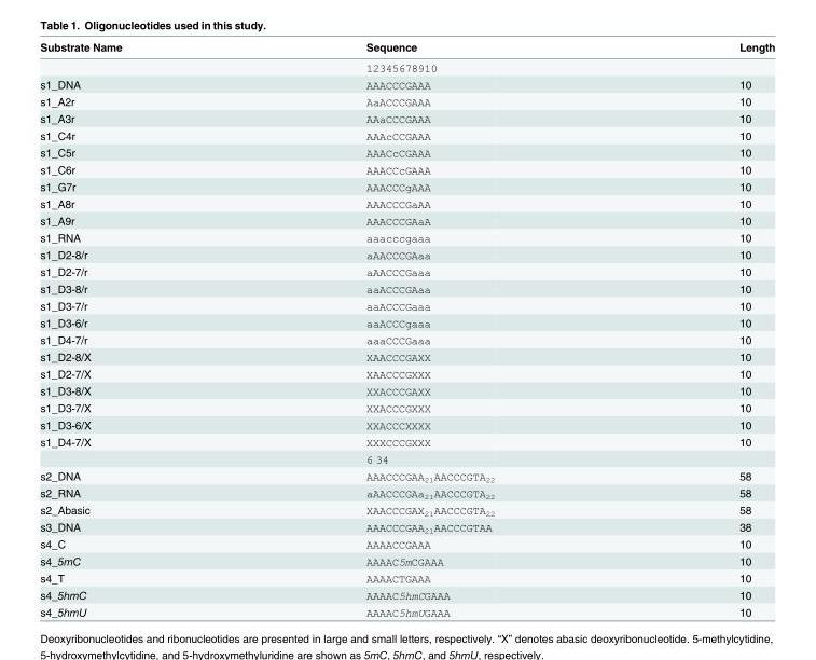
<table><thead><tr><td>Substrate Name</td><td>Sequence</td><td>Length</td></tr></thead><tbody><tr><td></td><td>12345678910</td><td></td></tr><tr><td>s1_DNA</td><td>AAACCCGAAA</td><td>10</td></tr><tr><td>s1_A2r</td><td>AaACCCGAAA</td><td>10</td></tr><tr><td>s1_A3r</td><td>AAaCCCGAAA</td><td>10</td></tr><tr><td>s1_C4r</td><td>AAAcCCGAAA</td><td>10</td></tr><tr><td>s1_C5r</td><td>AAACcCGAAA</td><td>10</td></tr><tr><td>s1_C6r</td><td>AAACCcGAAA</td><td>10</td></tr><tr><td>s1_G7r</td><td>AAACCCgAAA</td><td>10</td></tr><tr><td>s1_A8r</td><td>AAACCCGaAA</td><td>10</td></tr><tr><td>s1_A9r</td><td>AAACCCGAaA</td><td>10</td></tr><tr><td>s1_RNA</td><td>aaacccgaaa</td><td>10</td></tr><tr><td>s1_D2-8/r</td><td>aAACCCGAaa</td><td>10</td></tr><tr><td>s1_D2-7/r</td><td>aAACCCGaaa</td><td>10</td></tr><tr><td>s1_D3-8/r</td><td>aaACCCGAaa</td><td>10</td></tr><tr><td>s1_D3-7/r</td><td>aaACCCGaaa</td><td>10</td></tr><tr><td>s1_D3-6/r</td><td>aaACCCgaaa</td><td>10</td></tr><tr><td>s1_D4-7/r</td><td>aaaCCCGaaa</td><td>10</td></tr><tr><td>s1_D2-8/X</td><td>XAACCCGAXX</td><td>10</td></tr><tr><td>s1_D2-7/X</td><td>XAACCCGXXX</td><td>10</td></tr><tr><td>s1_D3-8/X</td><td>XXACCCGAXX</td><td>10</td></tr><tr><td>s1_D3-7/X</td><td>XXACCCGXXX</td><td>10</td></tr><tr><td>s1_D3-6/X</td><td>XXACCCXXXX</td><td>10</td></tr><tr><td rowspan="2">s1_D4-7/X</td><td>XXXCCCGXXX</td><td>10</td></tr><tr><td>6 34</td><td></td></tr><tr><td>s2_DNA</td><td>AAACCCGAA<sub>21</sub>AACCCGTA<sub>22</sub></td><td>58</td></tr><tr><td>s2_RNA</td><td>aAACCCGAa<sub>21</sub>AACCCGTA<sub>22</sub></td><td>58</td></tr><tr><td>s2_Abasic</td><td>XAACCCGAX<sub>21</sub>AACCCGTA<sub>22</sub></td><td>58</td></tr><tr><td>s3_DNA</td><td>AAACCCGAA<sub>21</sub>AACCCGTAA</td><td>38</td></tr><tr><td>s4_C</td><td>AAAACCGAAA</td><td>10</td></tr><tr><td>s4_5mC</td><td>AAAAC5mCGAAA</td><td>10</td></tr><tr><td>s4_T</td><td>AAAACTGAAA</td><td>10</td></tr><tr><td>s4_5hmC</td><td>AAAAC5hmCGAAA</td><td>10</td></tr><tr><td>s4_5hmU</td><td>AAAAC5hmUGAAA</td><td>10</td></tr></tbody></table>